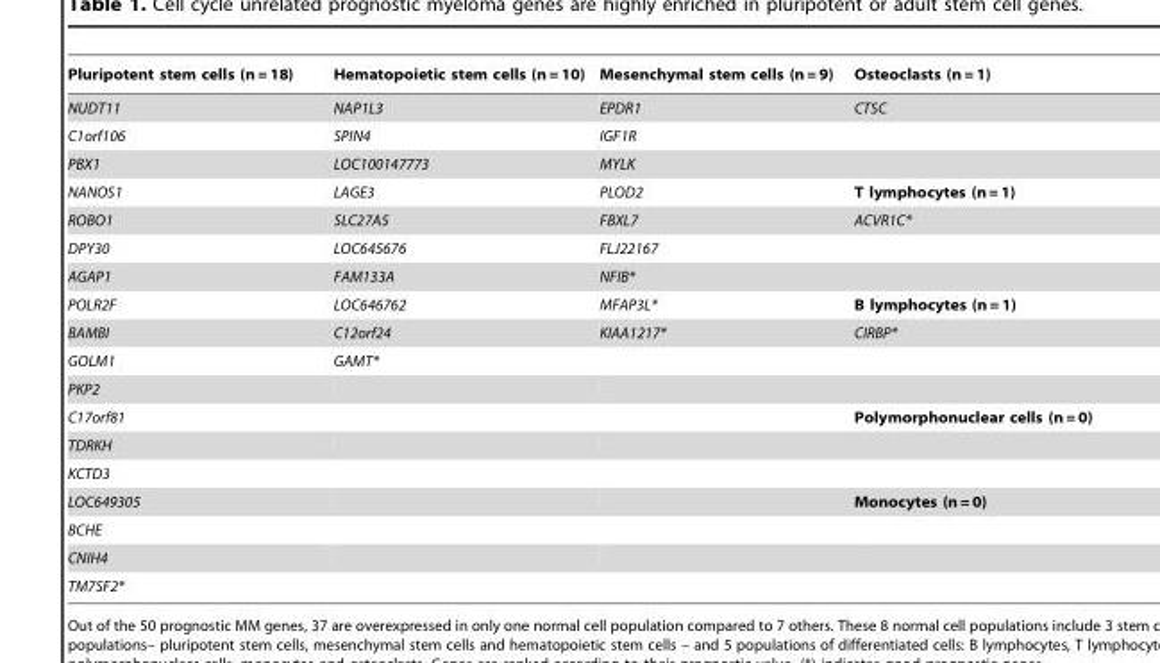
<table><thead><tr><td>Pluripotent stem cells (n = 18)</td><td>Hematopoietic stem cells (n = 10)</td><td>Mesenchymal stem cells (n = 9)</td><td>Osteoclasts (n = 1)</td></tr></thead><tbody><tr><td>NUDT11</td><td>NAP1L3</td><td>EPDR1</td><td>CTSC</td></tr><tr><td>C1orf106</td><td>SPIN4</td><td>IGF1R</td><td></td></tr><tr><td>PBX1</td><td>LOC100147773</td><td>MYLK</td><td></td></tr><tr><td>NANOS1</td><td>LAGE3</td><td>PLOD2</td><td>T lymphocytes (n = 1)</td></tr><tr><td>ROBO1</td><td>SLC27A5</td><td>FBXL7</td><td>ACVR1C*</td></tr><tr><td>DPY30</td><td>LOC645676</td><td>FLJ22167</td><td></td></tr><tr><td>AGAP1</td><td>FAM133A</td><td>NFIB*</td><td></td></tr><tr><td>POLR2F</td><td>LOC646762</td><td>MFAP3L*</td><td>B lymphocytes (n = 1)</td></tr><tr><td>BAMBI</td><td>C12orf24</td><td>KIAA1217*</td><td>CIRBP*</td></tr><tr><td>GOLM1</td><td>GAMT*</td><td></td><td></td></tr><tr><td colspan="4">PKP2</td></tr><tr><td>C17orf81</td><td></td><td></td><td>Polymorphonuclear cells (n = 0)</td></tr><tr><td colspan="4">TDRKH</td></tr><tr><td colspan="4">KCTD3</td></tr><tr><td>LOC649305</td><td></td><td></td><td>Monocytes (n = 0)</td></tr><tr><td colspan="4">BCHE</td></tr><tr><td colspan="4">CNIH4</td></tr><tr><td>TM7SF2*</td><td></td><td></td><td></td></tr></tbody></table>